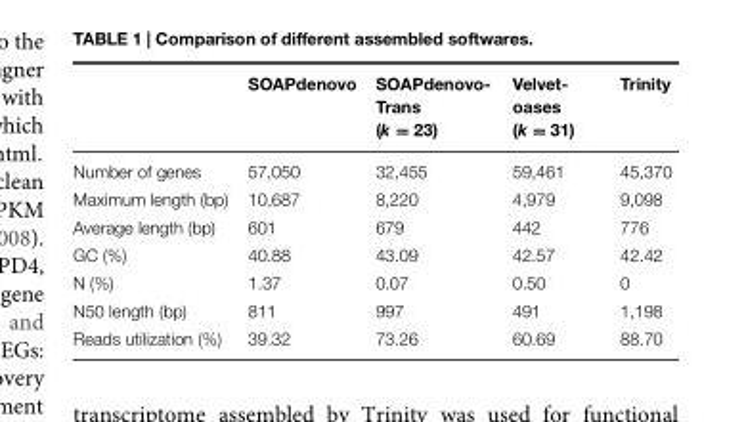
<table><thead><tr><td></td><td>SOAPdenovo</td><td>SOAPdenovo- Trans (k = 23)</td><td>Velvet- oases (k = 31)</td><td>Trinity</td></tr></thead><tbody><tr><td>Number of genes</td><td>57,050</td><td>32,455</td><td>59,461</td><td>45,370</td></tr><tr><td>Maximum length (bp)</td><td>10,687</td><td>8,220</td><td>4,979</td><td>9,098</td></tr><tr><td>Average length (bp)</td><td>601</td><td>679</td><td>442</td><td>776</td></tr><tr><td>GC (%)</td><td>40.88</td><td>43.09</td><td>42.57</td><td>42.42</td></tr><tr><td>N (%)</td><td>1.37</td><td>0.07</td><td>0.50</td><td>0</td></tr><tr><td>N50 length (bp)</td><td>811</td><td>997</td><td>491</td><td>1,198</td></tr><tr><td>Reads utilization (%)</td><td>39.32</td><td>73.26</td><td>60.69</td><td>88.70</td></tr></tbody></table>